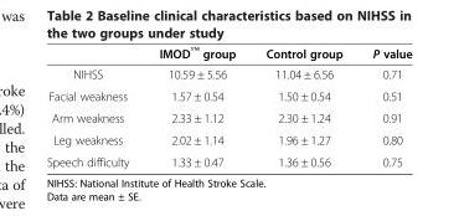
<table><thead><tr><td></td><td>IMOD™ group</td><td>Control group</td><td>P value</td></tr></thead><tbody><tr><td>NIHSS</td><td>10.59 ± 5.56</td><td>11.04 ± 6.56</td><td>0.71</td></tr><tr><td>Facial weakness</td><td>1.57 ± 0.54</td><td>1.50 ± 0.54</td><td>0.51</td></tr><tr><td>Arm weakness</td><td>2.33 ± 1.12</td><td>2.30 ± 1.24</td><td>0.91</td></tr><tr><td>Leg weakness</td><td>2.02 ± 1.14</td><td>1.96 ± 1.27</td><td>0.80</td></tr><tr><td>Speech difficulty</td><td>1.33 ± 0.47</td><td>1.36 ± 0.56</td><td>0.75</td></tr></tbody></table>